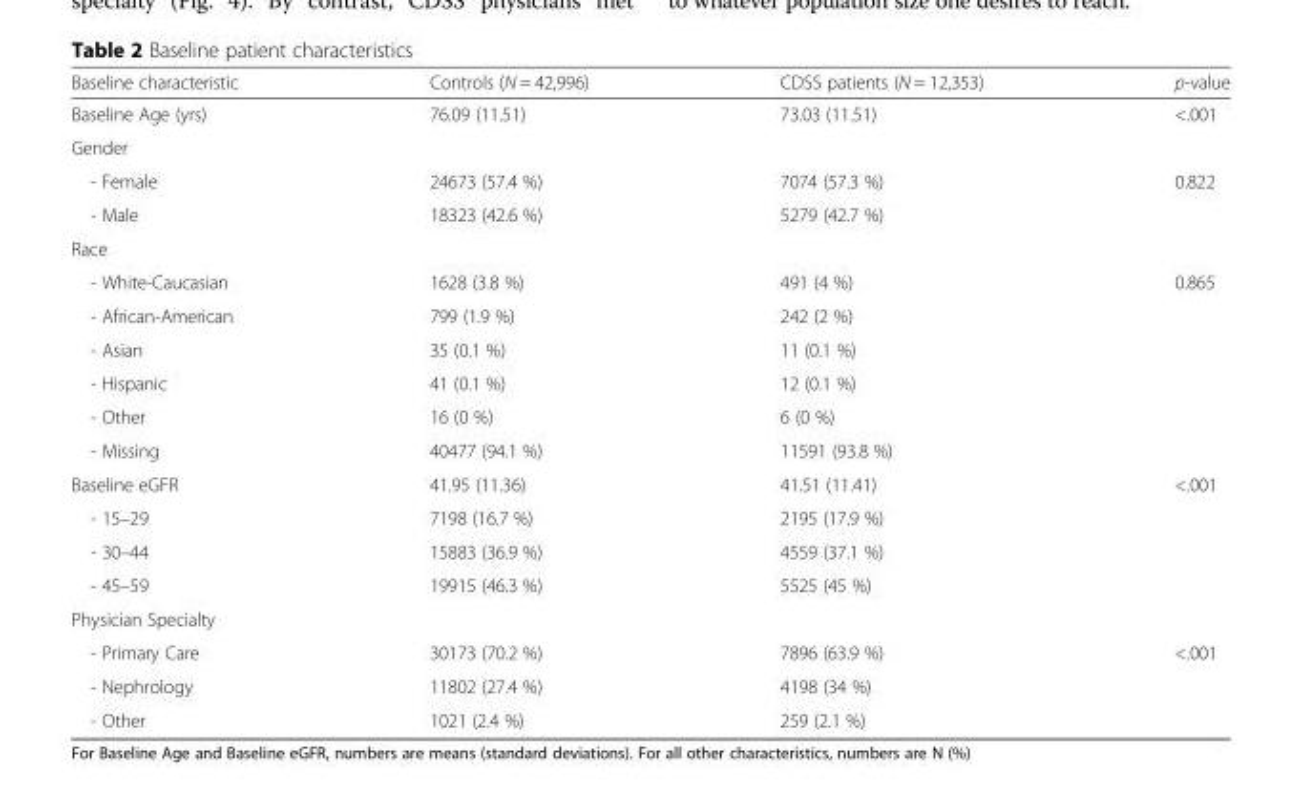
<table><thead><tr><td>Baseline characteristic</td><td>Controls (N = 42,996)</td><td>CDSS patients (N = 12,353)</td><td>p-value</td></tr></thead><tbody><tr><td>Baseline Age (yrs)</td><td>76.09 (11.51)</td><td>73.03 (11.51)</td><td>&lt;.001</td></tr><tr><td colspan="4">Gender</td></tr><tr><td>- Female</td><td>24673 (57.4 %)</td><td>7074 (57.3 %)</td><td>0.822</td></tr><tr><td>- Male</td><td>18323 (42.6 %)</td><td>5279 (42.7 %)</td><td></td></tr><tr><td colspan="4">Race</td></tr><tr><td>- White-Caucasian</td><td>1628 (3.8 %)</td><td>491 (4 %)</td><td>0.865</td></tr><tr><td>- African-American</td><td>799 (1.9 %)</td><td>242 (2 %)</td><td></td></tr><tr><td>- Asian</td><td>35 (0.1 %)</td><td>11 (0.1 %)</td><td></td></tr><tr><td>- Hispanic</td><td>41 (0.1 %)</td><td>12 (0.1 %)</td><td></td></tr><tr><td>- Other</td><td>16 (0 %)</td><td>6 (0 %)</td><td></td></tr><tr><td>- Missing</td><td>40477 (94.1 %)</td><td>11591 (93.8 %)</td><td></td></tr><tr><td>Baseline eGFR</td><td>41.95 (11.36)</td><td>41.51 (11.41)</td><td>&lt;.001</td></tr><tr><td>- 15–29</td><td>7198 (16.7 %)</td><td>2195 (17.9 %)</td><td></td></tr><tr><td>- 30–44</td><td>15883 (36.9 %)</td><td>4559 (37.1 %)</td><td></td></tr><tr><td>- 45–59</td><td>19915 (46.3 %)</td><td>5525 (45 %)</td><td></td></tr><tr><td colspan="4">Physician Specialty</td></tr><tr><td>- Primary Care</td><td>30173 (70.2 %)</td><td>7896 (63.9 %)</td><td>&lt;.001</td></tr><tr><td>- Nephrology</td><td>11802 (27.4 %)</td><td>4198 (34 %)</td><td></td></tr><tr><td>- Other</td><td>1021 (2.4 %)</td><td>259 (2.1 %)</td><td></td></tr></tbody></table>